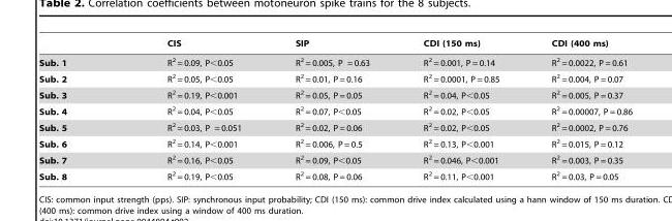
<table><thead><tr><td></td><td>CIS</td><td>SIP</td><td>CDI (150 ms)</td><td>CDI (400 ms)</td></tr></thead><tbody><tr><td>Sub. 1</td><td>R<sup>2</sup> = 0.09, P&lt;0.05</td><td>R<sup>2</sup> = 0.005, P = 0.63</td><td>R<sup>2</sup> = 0.001, P = 0.14</td><td>R<sup>2</sup> = 0.0022, P = 0.61</td></tr><tr><td>Sub. 2</td><td>R<sup>2</sup> = 0.05, P&lt;0.05</td><td>R<sup>2</sup> = 0.01, P = 0.16</td><td>R<sup>2</sup> = 0.0001, P = 0.85</td><td>R<sup>2</sup> = 0.004, P = 0.07</td></tr><tr><td>Sub. 3</td><td>R<sup>2</sup> = 0.19, P&lt;0.001</td><td>R<sup>2</sup> = 0.05, P = 0.05</td><td>R<sup>2</sup> = 0.04, P&lt;0.05</td><td>R<sup>2</sup> = 0.005, P = 0.37</td></tr><tr><td>Sub. 4</td><td>R<sup>2</sup> = 0.04, P&lt;0.05</td><td>R<sup>2</sup> = 0.07, P&lt;0.05</td><td>R<sup>2</sup> = 0.02, P&lt;0.05</td><td>R<sup>2</sup> = 0.00007, P = 0.86</td></tr><tr><td>Sub. 5</td><td>R<sup>2</sup> = 0.03, P = 0.051</td><td>R<sup>2</sup> = 0.02, P = 0.06</td><td>R<sup>2</sup> = 0.02, P&lt;0.05</td><td>R<sup>2</sup> = 0.0002, P = 0.76</td></tr><tr><td>Sub. 6</td><td>R<sup>2</sup> = 0.14, P&lt;0.001</td><td>R<sup>2</sup> = 0.006, P = 0.5</td><td>R<sup>2</sup> = 0.13, P&lt;0.001</td><td>R<sup>2</sup> = 0.015, P = 0.12</td></tr><tr><td>Sub. 7</td><td>R<sup>2</sup> = 0.16, P&lt;0.05</td><td>R<sup>2</sup> = 0.09, P&lt;0.05</td><td>R<sup>2</sup> = 0.046, P&lt;0.001</td><td>R<sup>2</sup> = 0.003, P = 0.35</td></tr><tr><td>Sub. 8</td><td>R<sup>2</sup> = 0.19, P&lt;0.05</td><td>R<sup>2</sup> = 0.08, P = 0.06</td><td>R<sup>2</sup> = 0.11, P&lt;0.001</td><td>R<sup>2</sup> = 0.03, P = 0.05</td></tr></tbody></table>